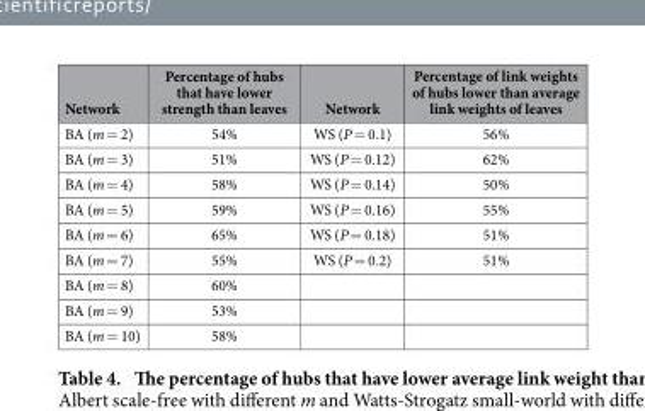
<table><thead><tr><td>Network</td><td>Percentage of hubs that have lower strength than leaves</td><td>Network</td><td>Percentage of link weights of hubs lower than average link weights of leaves</td></tr></thead><tbody><tr><td>BA (m = 2)</td><td>54%</td><td>WS (P = 0.1)</td><td>56%</td></tr><tr><td>BA (m = 3)</td><td>51%</td><td>WS (P = 0.12)</td><td>62%</td></tr><tr><td>BA (m = 4)</td><td>58%</td><td>WS (P = 0.14)</td><td>50%</td></tr><tr><td>BA (m = 5)</td><td>59%</td><td>WS (P = 0.16)</td><td>55%</td></tr><tr><td>BA (m = 6)</td><td>65%</td><td>WS (P = 0.18)</td><td>51%</td></tr><tr><td>BA (m = 7)</td><td>55%</td><td>WS (P = 0.2)</td><td>51%</td></tr><tr><td>BA (m = 8)</td><td>60%</td><td></td><td></td></tr><tr><td>BA (m = 9)</td><td>53%</td><td></td><td></td></tr><tr><td>BA (m = 10)</td><td>58%</td><td></td><td></td></tr></tbody></table>